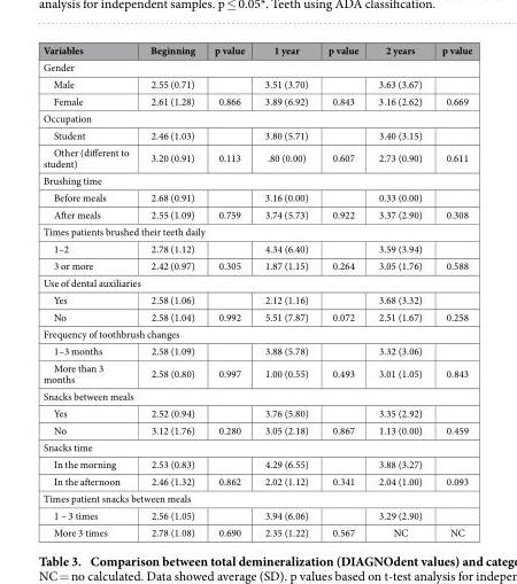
<table><thead><tr><td>Variables</td><td>Beginning</td><td>p value</td><td>1 year</td><td>p value</td><td>2 years</td><td>p value</td></tr></thead><tbody><tr><td colspan="7">Gender</td></tr><tr><td>Male</td><td>2.55 (0.71)</td><td></td><td>3.51 (3.70)</td><td></td><td>3.63 (3.67)</td><td></td></tr><tr><td>Female</td><td>2.61 (1.28)</td><td>0.866</td><td>3.89 (6.92)</td><td>0.843</td><td>3.16 (2.62)</td><td>0.669</td></tr><tr><td colspan="7">Occupation</td></tr><tr><td>Student</td><td>2.46 (1.03)</td><td></td><td>3.80 (5.71)</td><td></td><td>3.40 (3.15)</td><td></td></tr><tr><td>Other (different to student)</td><td>3.20 (0.91)</td><td>0.113</td><td>.80 (0.00)</td><td>0.607</td><td>2.73 (0.90)</td><td>0.611</td></tr><tr><td colspan="7">Brushing time</td></tr><tr><td>Before meals</td><td>2.68 (0.91)</td><td></td><td>3.16 (0.00)</td><td></td><td>0.33 (0.00)</td><td></td></tr><tr><td>After meals</td><td>2.55 (1.09)</td><td>0.759</td><td>3.74 (5.73)</td><td>0.922</td><td>3.37 (2.90)</td><td>0.308</td></tr><tr><td colspan="7">Times patients brushed their teeth daily</td></tr><tr><td>1–2</td><td>2.78 (1.12)</td><td></td><td>4.34 (6.40)</td><td></td><td>3.59 (3.94)</td><td></td></tr><tr><td>3 or more</td><td>2.42 (0.97)</td><td>0.305</td><td>1.87 (1.15)</td><td>0.264</td><td>3.05 (1.76)</td><td>0.588</td></tr><tr><td colspan="7">Use of dental auxiliaries</td></tr><tr><td>Yes</td><td>2.58 (1.06)</td><td></td><td>2.12 (1.16)</td><td></td><td>3.68 (3.32)</td><td></td></tr><tr><td>No</td><td>2.58 (1.04)</td><td>0.992</td><td>5.51 (7.87)</td><td>0.072</td><td>2.51 (1.67)</td><td>0.258</td></tr><tr><td colspan="7">Frequency of toothbrush changes</td></tr><tr><td>1–3 months</td><td>2.58 (1.09)</td><td></td><td>3.88 (5.78)</td><td></td><td>3.32 (3.06)</td><td></td></tr><tr><td>More than 3 months</td><td>2.58 (0.80)</td><td>0.997</td><td>1.00 (0.55)</td><td>0.493</td><td>3.01 (1.05)</td><td>0.843</td></tr><tr><td colspan="7">Snacks between meals</td></tr><tr><td>Yes</td><td>2.52 (0.94)</td><td></td><td>3.76 (5.80)</td><td></td><td>3.35 (2.92)</td><td></td></tr><tr><td>No</td><td>3.12 (1.76)</td><td>0.280</td><td>3.05 (2.18)</td><td>0.867</td><td>1.13 (0.00)</td><td>0.459</td></tr><tr><td colspan="7">Snacks time</td></tr><tr><td>In the morning</td><td>2.53 (0.83)</td><td></td><td>4.29 (6.55)</td><td></td><td>3.88 (3.27)</td><td></td></tr><tr><td>In the afternoon</td><td>2.46 (1.32)</td><td>0.862</td><td>2.02 (1.12)</td><td>0.341</td><td>2.04 (1.00)</td><td>0.093</td></tr><tr><td colspan="7">Times patient snacks between meals</td></tr><tr><td>1 – 3 times</td><td>2.56 (1.05)</td><td></td><td>3.94 (6.06)</td><td></td><td>3.29 (2.90)</td><td></td></tr><tr><td>More 3 times</td><td>2.78 (1.08)</td><td>0.690</td><td>2.35 (1.22)</td><td>0.567</td><td>NC</td><td>NC</td></tr></tbody></table>